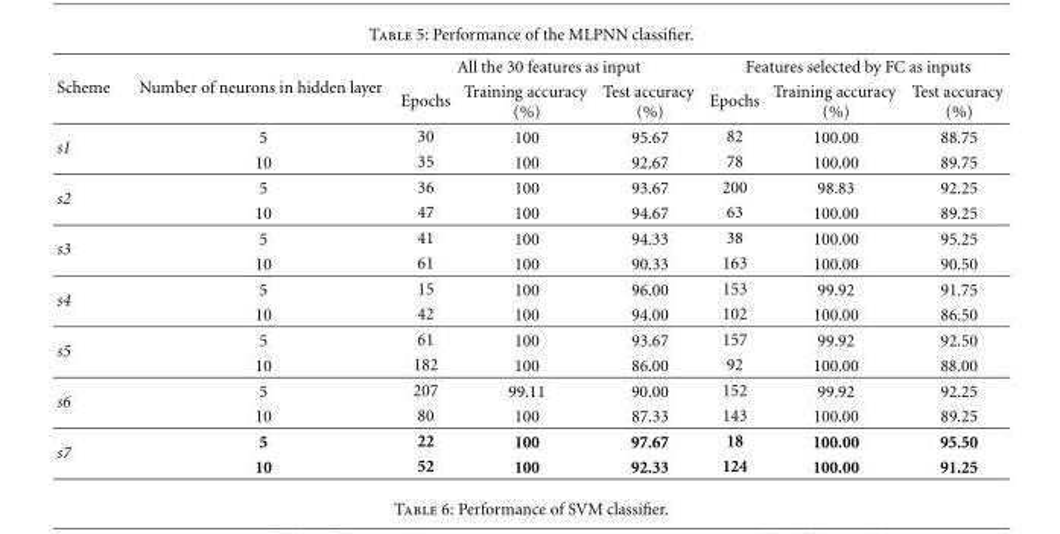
<table><thead><tr><td rowspan="2">Scheme</td><td rowspan="2">Number of neurons in hidden layer</td><td colspan="3">All the 30 features as input</td><td colspan="3">Features selected by FC as inputs</td></tr><tr><td>Epochs</td><td>Training accuracy (%)</td><td>Test accuracy (%)</td><td>Epochs</td><td>Training accuracy (%)</td><td>Test accuracy (%)</td></tr></thead><tbody><tr><td rowspan="2">s1</td><td>5</td><td>30</td><td>100</td><td>95.67</td><td>82</td><td>100.00</td><td>88.75</td></tr><tr><td>10</td><td>35</td><td>100</td><td>92.67</td><td>78</td><td>100.00</td><td>89.75</td></tr><tr><td rowspan="2">s2</td><td>5</td><td>36</td><td>100</td><td>93.67</td><td>200</td><td>98.83</td><td>92.25</td></tr><tr><td>10</td><td>47</td><td>100</td><td>94.67</td><td>63</td><td>100.00</td><td>89.25</td></tr><tr><td rowspan="2">s3</td><td>5</td><td>41</td><td>100</td><td>94.33</td><td>38</td><td>100.00</td><td>95.25</td></tr><tr><td>10</td><td>61</td><td>100</td><td>90.33</td><td>163</td><td>100.00</td><td>90.50</td></tr><tr><td rowspan="2">s4</td><td>5</td><td>15</td><td>100</td><td>96.00</td><td>153</td><td>99.92</td><td>91.75</td></tr><tr><td>10</td><td>42</td><td>100</td><td>94.00</td><td>102</td><td>100.00</td><td>86.50</td></tr><tr><td rowspan="2">s5</td><td>5</td><td>61</td><td>100</td><td>93.67</td><td>157</td><td>99.92</td><td>92.50</td></tr><tr><td>10</td><td>182</td><td>100</td><td>86.00</td><td>92</td><td>100.00</td><td>88.00</td></tr><tr><td rowspan="2">s6</td><td>5</td><td>207</td><td>99.11</td><td>90.00</td><td>152</td><td>99.92</td><td>92.25</td></tr><tr><td>10</td><td>80</td><td>100</td><td>87.33</td><td>143</td><td>100.00</td><td>89.25</td></tr><tr><td rowspan="2">s7</td><td>5</td><td>22</td><td>100</td><td>97.67</td><td>18</td><td>100.00</td><td>95.50</td></tr><tr><td>10</td><td>52</td><td>100</td><td>92.33</td><td>124</td><td>100.00</td><td>91.25</td></tr></tbody></table>